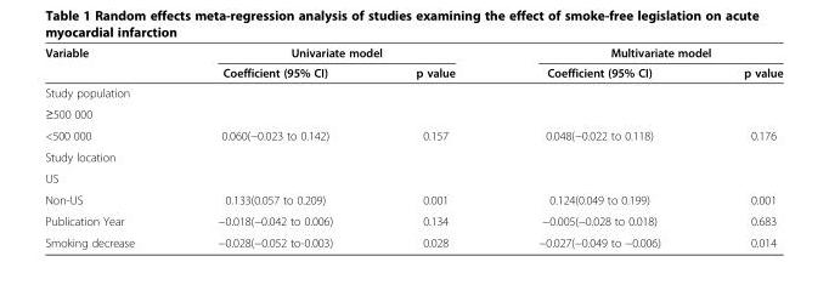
<table><thead><tr><td rowspan="2">Variable</td><td colspan="2">Univariate model</td><td colspan="2">Multivariate model</td></tr><tr><td>Coefficient (95% CI)</td><td>p value</td><td>Coefficient (95% CI)</td><td>p value</td></tr></thead><tbody><tr><td colspan="5">Study population</td></tr><tr><td colspan="5">≥500 000</td></tr><tr><td>&lt;500 000</td><td>0.060(−0.023 to 0.142)</td><td>0.157</td><td>0.048(−0.022 to 0.118)</td><td>0.176</td></tr><tr><td colspan="5">Study location</td></tr><tr><td colspan="5">US</td></tr><tr><td>Non-US</td><td>0.133(0.057 to 0.209)</td><td>0.001</td><td>0.124(0.049 to 0.199)</td><td>0.001</td></tr><tr><td>Publication Year</td><td>−0.018(−0.042 to 0.006)</td><td>0.134</td><td>−0.005(−0.028 to 0.018)</td><td>0.683</td></tr><tr><td>Smoking decrease</td><td>−0.028(−0.052 to-0.003)</td><td>0.028</td><td>−0.027(−0.049 to −0.006)</td><td>0.014</td></tr></tbody></table>